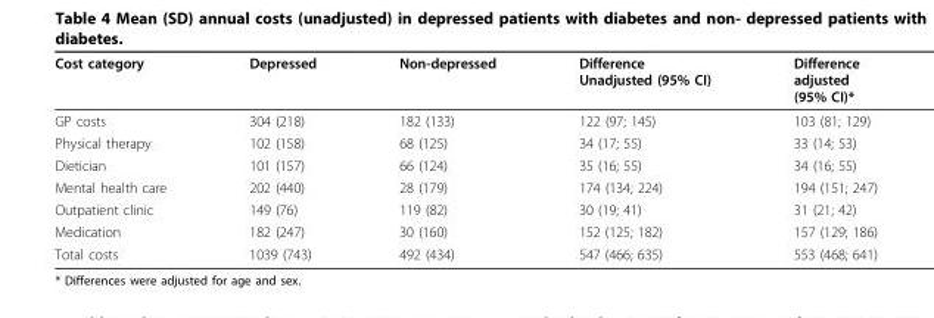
<table><thead><tr><td>Cost category</td><td>Depressed</td><td>Non-depressed</td><td>Difference Unadjusted (95% CI)</td><td>Difference adjusted (95% CI)*</td></tr></thead><tbody><tr><td>GP costs</td><td>304 (218)</td><td>182 (133)</td><td>122 (97; 145)</td><td>103 (81; 129)</td></tr><tr><td>Physical therapy</td><td>102 (158)</td><td>68 (125)</td><td>34 (17; 55)</td><td>33 (14; 53)</td></tr><tr><td>Dietician</td><td>101 (157)</td><td>66 (124)</td><td>35 (16; 55)</td><td>34 (16; 55)</td></tr><tr><td>Mental health care</td><td>202 (440)</td><td>28 (179)</td><td>174 (134; 224)</td><td>194 (151; 247)</td></tr><tr><td>Outpatient clinic</td><td>149 (76)</td><td>119 (82)</td><td>30 (19; 41)</td><td>31 (21; 42)</td></tr><tr><td>Medication</td><td>182 (247)</td><td>30 (160)</td><td>152 (125; 182)</td><td>157 (129; 186)</td></tr><tr><td>Total costs</td><td>1039 (743)</td><td>492 (434)</td><td>547 (466; 635)</td><td>553 (468; 641)</td></tr></tbody></table>